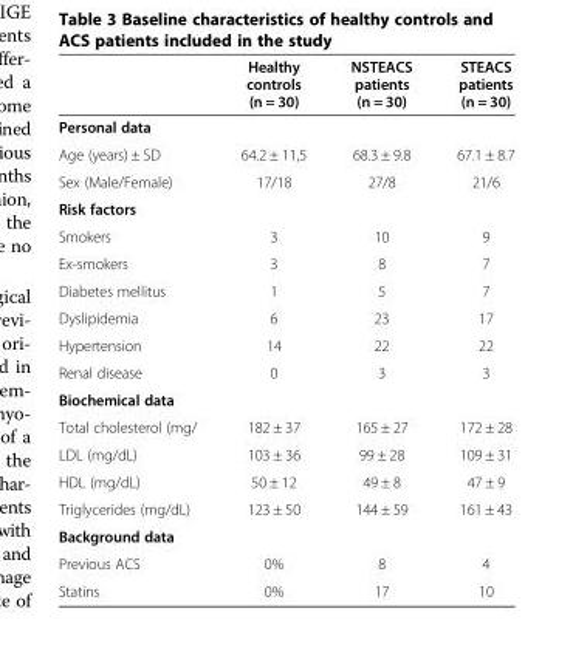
<table><thead><tr><td></td><td>Healthy controls (n = 30)</td><td>NSTEACS patients (n = 30)</td><td>STEACS patients (n = 30)</td></tr></thead><tbody><tr><td colspan="4">Personal data</td></tr><tr><td>Age (years) ± SD</td><td>64.2 ± 11,5</td><td>68.3 ± 9.8</td><td>67.1 ± 8.7</td></tr><tr><td>Sex (Male/Female)</td><td>17/18</td><td>27/8</td><td>21/6</td></tr><tr><td colspan="4">Risk factors</td></tr><tr><td>Smokers</td><td>3</td><td>10</td><td>9</td></tr><tr><td>Ex-smokers</td><td>3</td><td>8</td><td>7</td></tr><tr><td>Diabetes mellitus</td><td>1</td><td>5</td><td>7</td></tr><tr><td>Dyslipidemia</td><td>6</td><td>23</td><td>17</td></tr><tr><td>Hypertension</td><td>14</td><td>22</td><td>22</td></tr><tr><td>Renal disease</td><td>0</td><td>3</td><td>3</td></tr><tr><td colspan="4">Biochemical data</td></tr><tr><td>Total cholesterol (mg/</td><td>182 ± 37</td><td>165 ± 27</td><td>172 ± 28</td></tr><tr><td>LDL (mg/dL)</td><td>103 ± 36</td><td>99 ± 28</td><td>109 ± 31</td></tr><tr><td>HDL (mg/dL)</td><td>50 ± 12</td><td>49 ± 8</td><td>47 ± 9</td></tr><tr><td>Triglycerides (mg/dL)</td><td>123 ± 50</td><td>144 ± 59</td><td>161 ± 43</td></tr><tr><td colspan="4">Background data</td></tr><tr><td>Previous ACS</td><td>0%</td><td>8</td><td>4</td></tr><tr><td>Statins</td><td>0%</td><td>17</td><td>10</td></tr></tbody></table>